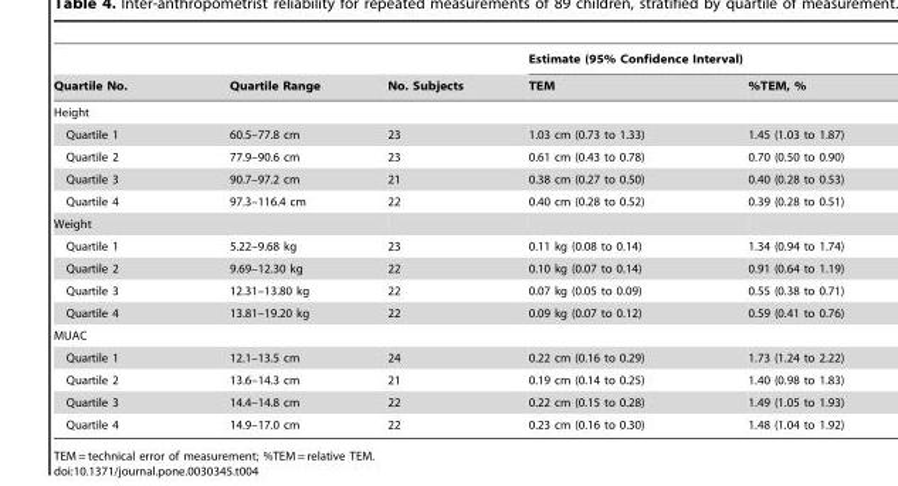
<table><thead><tr><td rowspan="2">Quartile No.</td><td rowspan="2">Quartile Range</td><td rowspan="2">No. Subjects</td><td colspan="2">Estimate (95% Confidence Interval)</td></tr><tr><td>TEM</td><td>%TEM, %</td></tr></thead><tbody><tr><td colspan="5">Height</td></tr><tr><td>Quartile 1</td><td>60.5–77.8 cm</td><td>23</td><td>1.03 cm (0.73 to 1.33)</td><td>1.45 (1.03 to 1.87)</td></tr><tr><td>Quartile 2</td><td>77.9–90.6 cm</td><td>23</td><td>0.61 cm (0.43 to 0.78)</td><td>0.70 (0.50 to 0.90)</td></tr><tr><td>Quartile 3</td><td>90.7–97.2 cm</td><td>21</td><td>0.38 cm (0.27 to 0.50)</td><td>0.40 (0.28 to 0.53)</td></tr><tr><td>Quartile 4</td><td>97.3–116.4 cm</td><td>22</td><td>0.40 cm (0.28 to 0.52)</td><td>0.39 (0.28 to 0.51)</td></tr><tr><td colspan="5">Weight</td></tr><tr><td>Quartile 1</td><td>5.22–9.68 kg</td><td>23</td><td>0.11 kg (0.08 to 0.14)</td><td>1.34 (0.94 to 1.74)</td></tr><tr><td>Quartile 2</td><td>9.69–12.30 kg</td><td>22</td><td>0.10 kg (0.07 to 0.14)</td><td>0.91 (0.64 to 1.19)</td></tr><tr><td>Quartile 3</td><td>12.31–13.80 kg</td><td>22</td><td>0.07 kg (0.05 to 0.09)</td><td>0.55 (0.38 to 0.71)</td></tr><tr><td>Quartile 4</td><td>13.81–19.20 kg</td><td>22</td><td>0.09 kg (0.07 to 0.12)</td><td>0.59 (0.41 to 0.76)</td></tr><tr><td colspan="5">MUAC</td></tr><tr><td>Quartile 1</td><td>12.1–13.5 cm</td><td>24</td><td>0.22 cm (0.16 to 0.29)</td><td>1.73 (1.24 to 2.22)</td></tr><tr><td>Quartile 2</td><td>13.6–14.3 cm</td><td>21</td><td>0.19 cm (0.14 to 0.25)</td><td>1.40 (0.98 to 1.83)</td></tr><tr><td>Quartile 3</td><td>14.4–14.8 cm</td><td>22</td><td>0.22 cm (0.15 to 0.28)</td><td>1.49 (1.05 to 1.93)</td></tr><tr><td>Quartile 4</td><td>14.9–17.0 cm</td><td>22</td><td>0.23 cm (0.16 to 0.30)</td><td>1.48 (1.04 to 1.92)</td></tr></tbody></table>